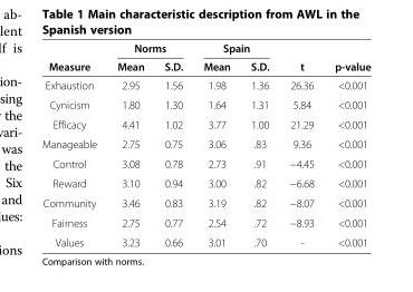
<table><thead><tr><td rowspan="2">Measure</td><td colspan="2">Norms</td><td colspan="2">Spain</td><td rowspan="2">t</td><td rowspan="2">p-value</td></tr><tr><td>Mean</td><td>S.D.</td><td>Mean</td><td>S.D.</td></tr></thead><tbody><tr><td>Exhaustion</td><td>2.95</td><td>1.56</td><td>1.98</td><td>1.36</td><td>26.36</td><td>&lt;0.001</td></tr><tr><td>Cynicism</td><td>1.80</td><td>1.30</td><td>1.64</td><td>1.31</td><td>5.84</td><td>&lt;0.001</td></tr><tr><td>Efficacy</td><td>4.41</td><td>1.02</td><td>3.77</td><td>1.00</td><td>21.29</td><td>&lt;0.001</td></tr><tr><td>Manageable</td><td>2.75</td><td>0.75</td><td>3.06</td><td>.83</td><td>9.36</td><td>&lt;0.001</td></tr><tr><td>Control</td><td>3.08</td><td>0.78</td><td>2.73</td><td>.91</td><td>−4.45</td><td>&lt;0.001</td></tr><tr><td>Reward</td><td>3.10</td><td>0.94</td><td>3.00</td><td>.82</td><td>−6.68</td><td>&lt;0.001</td></tr><tr><td>Community</td><td>3.46</td><td>0.83</td><td>3.19</td><td>.82</td><td>−8.07</td><td>&lt;0.001</td></tr><tr><td>Fairness</td><td>2.75</td><td>0.77</td><td>2.54</td><td>.72</td><td>−8.93</td><td>&lt;0.001</td></tr><tr><td>Values</td><td>3.23</td><td>0.66</td><td>3.01</td><td>.70</td><td>-</td><td>&lt;0.001</td></tr></tbody></table>